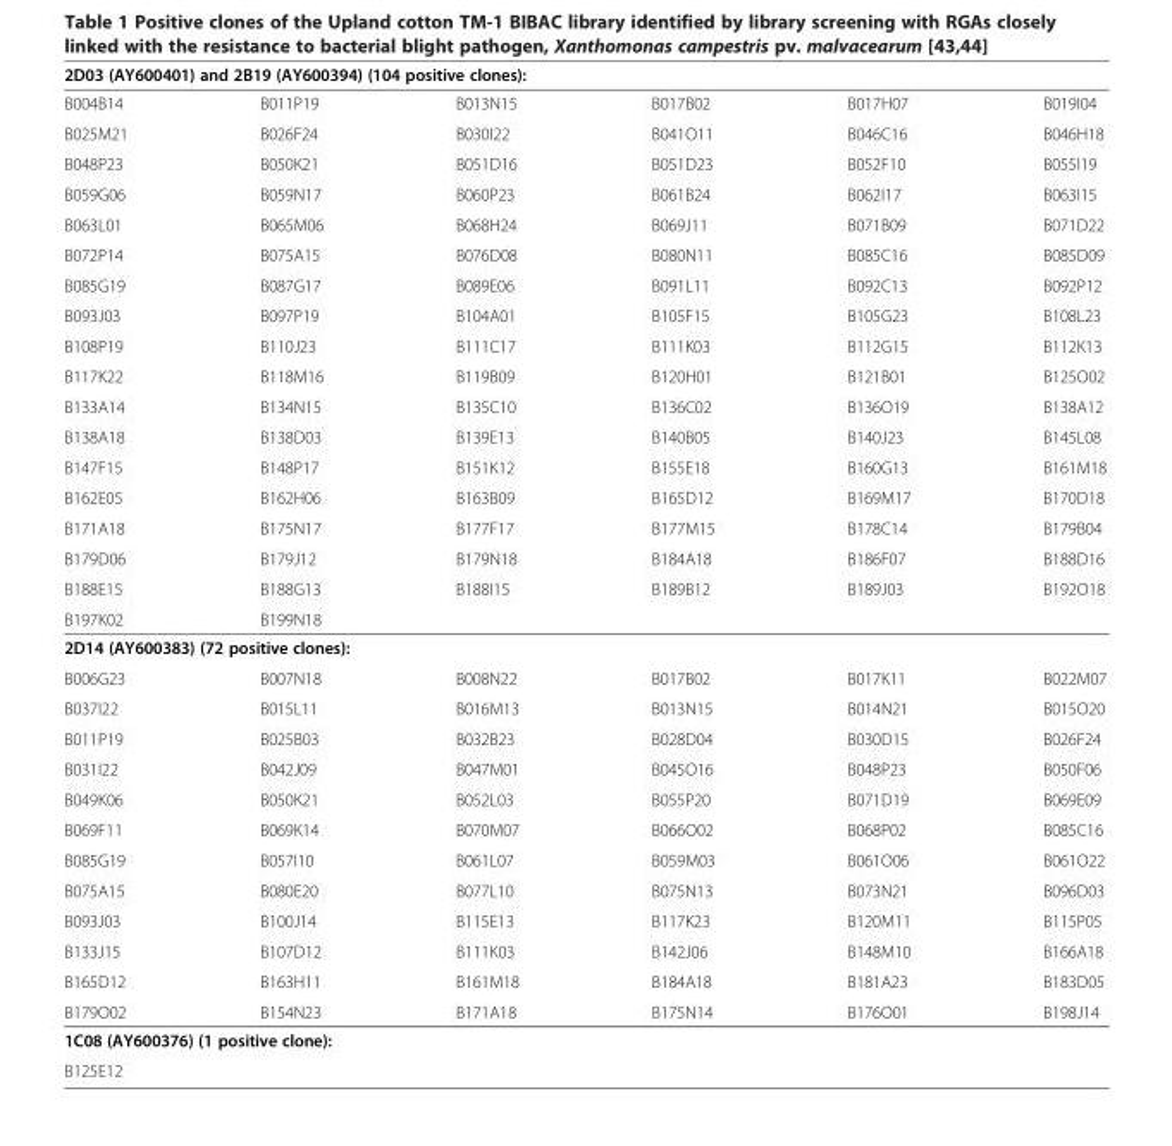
<table><thead><tr><td colspan="6">2D03 (AY600401) and 2B19 (AY600394) (104 positive clones):</td></tr><tr><td>B004B14</td><td>B011P19</td><td>B013N15</td><td>B017B02</td><td>B017H07</td><td>B019I04</td></tr></thead><tbody><tr><td>B025M21</td><td>B026F24</td><td>B030I22</td><td>B041O11</td><td>B046C16</td><td>B046H18</td></tr><tr><td>B048P23</td><td>B050K21</td><td>B051D16</td><td>B051D23</td><td>B052F10</td><td>B055I19</td></tr><tr><td>B059G06</td><td>B059N17</td><td>B060P23</td><td>B061B24</td><td>B062I17</td><td>B063I15</td></tr><tr><td>B063L01</td><td>B065M06</td><td>B068H24</td><td>B069J11</td><td>B071B09</td><td>B071D22</td></tr><tr><td>B072P14</td><td>B075A15</td><td>B076D08</td><td>B080N11</td><td>B085C16</td><td>B085D09</td></tr><tr><td>B085G19</td><td>B087G17</td><td>B089E06</td><td>B091L11</td><td>B092C13</td><td>B092P12</td></tr><tr><td>B093J03</td><td>B097P19</td><td>B104A01</td><td>B105F15</td><td>B105G23</td><td>B108L23</td></tr><tr><td>B108P19</td><td>B110J23</td><td>B111C17</td><td>B111K03</td><td>B112G15</td><td>B112K13</td></tr><tr><td>B117K22</td><td>B118M16</td><td>B119B09</td><td>B120H01</td><td>B121B01</td><td>B125O02</td></tr><tr><td>B133A14</td><td>B134N15</td><td>B135C10</td><td>B136C02</td><td>B136O19</td><td>B138A12</td></tr><tr><td>B138A18</td><td>B138D03</td><td>B139E13</td><td>B140B05</td><td>B140J23</td><td>B145L08</td></tr><tr><td>B147F15</td><td>B148P17</td><td>B151K12</td><td>B155E18</td><td>B160G13</td><td>B161M18</td></tr><tr><td>B162E05</td><td>B162H06</td><td>B163B09</td><td>B165D12</td><td>B169M17</td><td>B170D18</td></tr><tr><td>B171A18</td><td>B175N17</td><td>B177F17</td><td>B177M15</td><td>B178C14</td><td>B179B04</td></tr><tr><td>B179D06</td><td>B179J12</td><td>B179N18</td><td>B184A18</td><td>B186F07</td><td>B188D16</td></tr><tr><td>B188E15</td><td>B188G13</td><td>B188I15</td><td>B189B12</td><td>B189J03</td><td>B192O18</td></tr><tr><td>B197K02</td><td>B199N18</td><td></td><td></td><td></td><td></td></tr><tr><td colspan="6">2D14 (AY600383) (72 positive clones):</td></tr><tr><td>B006G23</td><td>B007N18</td><td>B008N22</td><td>B017B02</td><td>B017K11</td><td>B022M07</td></tr><tr><td>B037I22</td><td>B015L11</td><td>B016M13</td><td>B013N15</td><td>B014N21</td><td>B015O20</td></tr><tr><td>B011P19</td><td>B025B03</td><td>B032B23</td><td>B028D04</td><td>B030D15</td><td>B026F24</td></tr><tr><td>B031I22</td><td>B042J09</td><td>B047M01</td><td>B045O16</td><td>B048P23</td><td>B050F06</td></tr><tr><td>B049K06</td><td>B050K21</td><td>B052L03</td><td>B055P20</td><td>B071D19</td><td>B069E09</td></tr><tr><td>B069F11</td><td>B069K14</td><td>B070M07</td><td>B066O02</td><td>B068P02</td><td>B085C16</td></tr><tr><td>B085G19</td><td>B057I10</td><td>B061L07</td><td>B059M03</td><td>B061O06</td><td>B061O22</td></tr><tr><td>B075A15</td><td>B080E20</td><td>B077L10</td><td>B075N13</td><td>B073N21</td><td>B096D03</td></tr><tr><td>B093J03</td><td>B100J14</td><td>B115E13</td><td>B117K23</td><td>B120M11</td><td>B115P05</td></tr><tr><td>B133J15</td><td>B107D12</td><td>B111K03</td><td>B142J06</td><td>B148M10</td><td>B166A18</td></tr><tr><td>B165D12</td><td>B163H11</td><td>B161M18</td><td>B184A18</td><td>B181A23</td><td>B183D05</td></tr><tr><td>B179O02</td><td>B154N23</td><td>B171A18</td><td>B175N14</td><td>B176O01</td><td>B198J14</td></tr><tr><td colspan="6">1C08 (AY600376) (1 positive clone):</td></tr><tr><td>B125E12</td><td></td><td></td><td></td><td></td><td></td></tr></tbody></table>